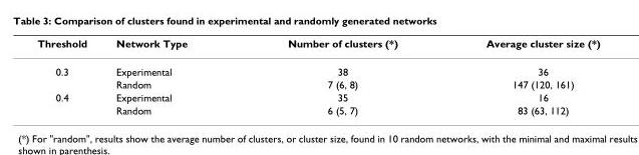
<table><thead><tr><td>Threshold</td><td>Network Type</td><td>Number of clusters (*)</td><td>Average cluster size (*)</td></tr></thead><tbody><tr><td rowspan="2">0.3</td><td>Experimental</td><td>38</td><td>36</td></tr><tr><td>Random</td><td>7 (6, 8)</td><td>147 (120, 161)</td></tr><tr><td rowspan="2">0.4</td><td>Experimental</td><td>35</td><td>16</td></tr><tr><td>Random</td><td>6 (5, 7)</td><td>83 (63, 112)</td></tr></tbody></table>